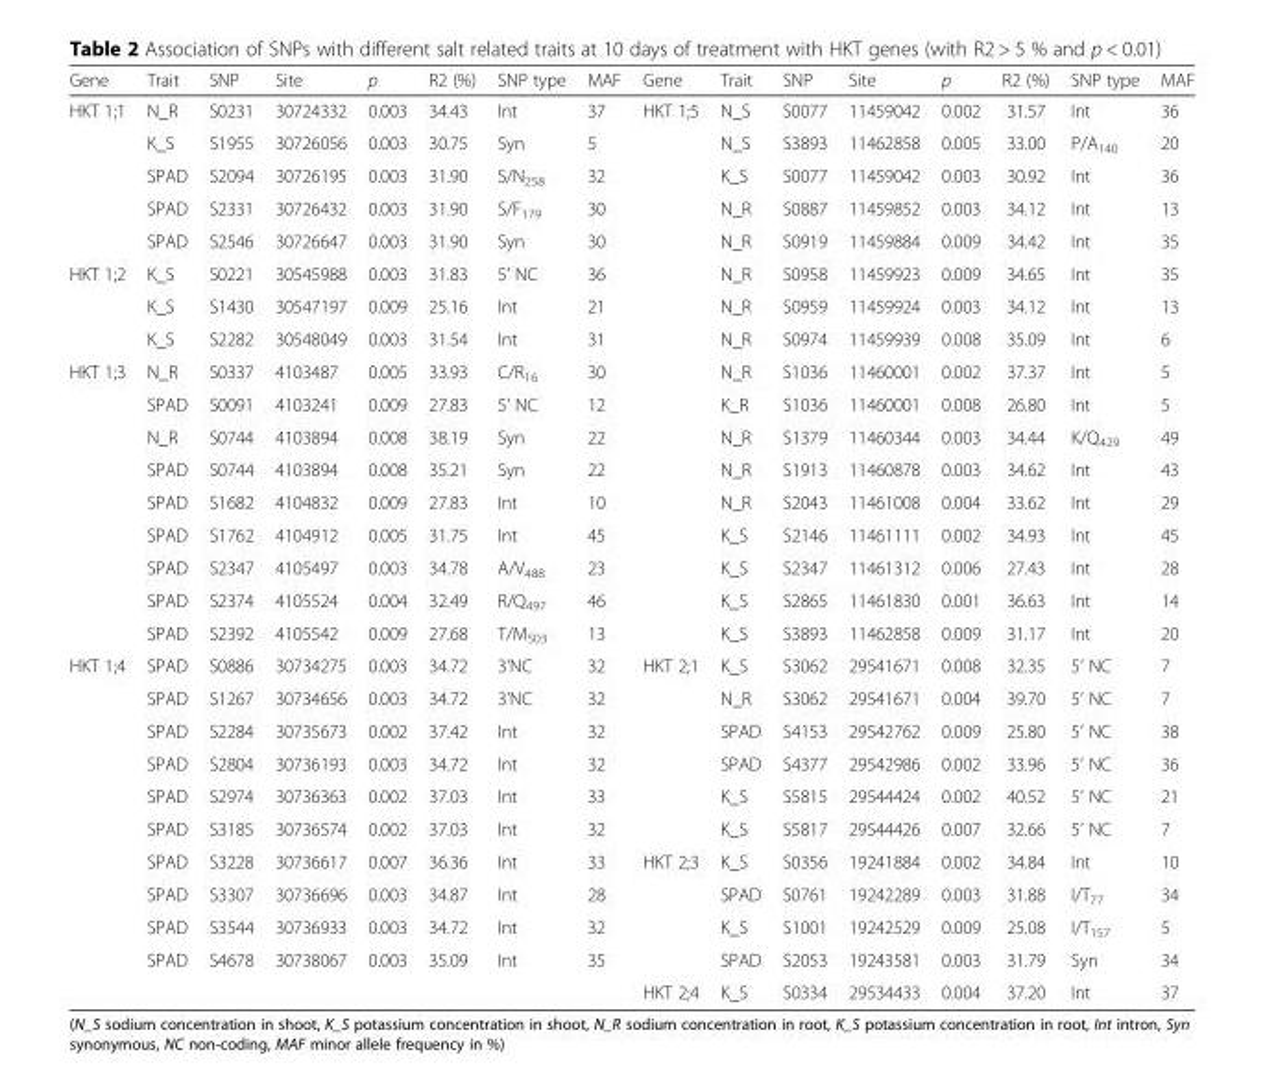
<table><thead><tr><td>Gene</td><td>Trait</td><td>SNP</td><td>Site</td><td>p</td><td>R2 (%)</td><td>SNP type</td><td>MAF</td><td>Gene</td><td>Trait</td><td>SNP</td><td>Site</td><td>p</td><td>R2 (%)</td><td>SNP type</td><td>MAF</td></tr></thead><tbody><tr><td rowspan="5">HKT 1;1</td><td>N_R</td><td>S0231</td><td>30724332</td><td>0.003</td><td>34.43</td><td>Int</td><td>37</td><td rowspan="17">HKT 1;5</td><td>N_S</td><td>S0077</td><td>11459042</td><td>0.002</td><td>31.57</td><td>Int</td><td>36</td></tr><tr><td>K_S</td><td>S1955</td><td>30726056</td><td>0.003</td><td>30.75</td><td>Syn</td><td>5</td><td>N_S</td><td>S3893</td><td>11462858</td><td>0.005</td><td>33.00</td><td>P/A<sub>140</sub></td><td>20</td></tr><tr><td>SPAD</td><td>S2094</td><td>30726195</td><td>0.003</td><td>31.90</td><td>S/N<sub>258</sub></td><td>32</td><td>K_S</td><td>S0077</td><td>11459042</td><td>0.003</td><td>30.92</td><td>Int</td><td>36</td></tr><tr><td>SPAD</td><td>S2331</td><td>30726432</td><td>0.003</td><td>31.90</td><td>S/F<sub>179</sub></td><td>30</td><td>N_R</td><td>S0887</td><td>11459852</td><td>0.003</td><td>34.12</td><td>Int</td><td>13</td></tr><tr><td>SPAD</td><td>S2546</td><td>30726647</td><td>0.003</td><td>31.90</td><td>Syn</td><td>30</td><td>N_R</td><td>S0919</td><td>11459884</td><td>0.009</td><td>34.42</td><td>Int</td><td>35</td></tr><tr><td rowspan="3">HKT 1;2</td><td>K_S</td><td>S0221</td><td>30545988</td><td>0.003</td><td>31.83</td><td>5’ NC</td><td>36</td><td>N_R</td><td>S0958</td><td>11459923</td><td>0.009</td><td>34.65</td><td>Int</td><td>35</td></tr><tr><td>K_S</td><td>S1430</td><td>30547197</td><td>0.009</td><td>25.16</td><td>Int</td><td>21</td><td>N_R</td><td>S0959</td><td>11459924</td><td>0.003</td><td>34.12</td><td>Int</td><td>13</td></tr><tr><td>K_S</td><td>S2282</td><td>30548049</td><td>0.003</td><td>31.54</td><td>Int</td><td>31</td><td>N_R</td><td>S0974</td><td>11459939</td><td>0.008</td><td>35.09</td><td>Int</td><td>6</td></tr><tr><td rowspan="9">HKT 1;3</td><td>N_R</td><td>S0337</td><td>4103487</td><td>0.005</td><td>33.93</td><td>C/R<sub>16</sub></td><td>30</td><td>N_R</td><td>S1036</td><td>11460001</td><td>0.002</td><td>37.37</td><td>Int</td><td>5</td></tr><tr><td>SPAD</td><td>S0091</td><td>4103241</td><td>0.009</td><td>27.83</td><td>5’ NC</td><td>12</td><td>K_R</td><td>S1036</td><td>11460001</td><td>0.008</td><td>26.80</td><td>Int</td><td>5</td></tr><tr><td>N_R</td><td>S0744</td><td>4103894</td><td>0.008</td><td>38.19</td><td>Syn</td><td>22</td><td>N_R</td><td>S1379</td><td>11460344</td><td>0.003</td><td>34.44</td><td>K/Q<sub>429</sub></td><td>49</td></tr><tr><td>SPAD</td><td>S0744</td><td>4103894</td><td>0.008</td><td>35.21</td><td>Syn</td><td>22</td><td>N_R</td><td>S1913</td><td>11460878</td><td>0.003</td><td>34.62</td><td>Int</td><td>43</td></tr><tr><td>SPAD</td><td>S1682</td><td>4104832</td><td>0.009</td><td>27.83</td><td>Int</td><td>10</td><td>N_R</td><td>S2043</td><td>11461008</td><td>0.004</td><td>33.62</td><td>Int</td><td>29</td></tr><tr><td>SPAD</td><td>S1762</td><td>4104912</td><td>0.005</td><td>31.75</td><td>Int</td><td>45</td><td>K_S</td><td>S2146</td><td>11461111</td><td>0.002</td><td>34.93</td><td>Int</td><td>45</td></tr><tr><td>SPAD</td><td>S2347</td><td>4105497</td><td>0.003</td><td>34.78</td><td>A/V<sub>488</sub></td><td>23</td><td>K_S</td><td>S2347</td><td>11461312</td><td>0.006</td><td>27.43</td><td>Int</td><td>28</td></tr><tr><td>SPAD</td><td>S2374</td><td>4105524</td><td>0.004</td><td>32.49</td><td>R/Q<sub>497</sub></td><td>46</td><td>K_S</td><td>S2865</td><td>11461830</td><td>0.001</td><td>36.63</td><td>Int</td><td>14</td></tr><tr><td>SPAD</td><td>S2392</td><td>4105542</td><td>0.009</td><td>27.68</td><td>T/M<sub>503</sub></td><td>13</td><td>K_S</td><td>S3893</td><td>11462858</td><td>0.009</td><td>31.17</td><td>Int</td><td>20</td></tr><tr><td rowspan="11">HKT 1;4</td><td>SPAD</td><td>S0886</td><td>30734275</td><td>0.003</td><td>34.72</td><td>3’NC</td><td>32</td><td rowspan="6">HKT 2;1</td><td>K_S</td><td>S3062</td><td>29541671</td><td>0.008</td><td>32.35</td><td>5’ NC</td><td>7</td></tr><tr><td>SPAD</td><td>S1267</td><td>30734656</td><td>0.003</td><td>34.72</td><td>3’NC</td><td>32</td><td>N_R</td><td>S3062</td><td>29541671</td><td>0.004</td><td>39.70</td><td>5’ NC</td><td>7</td></tr><tr><td>SPAD</td><td>S2284</td><td>30735673</td><td>0.002</td><td>37.42</td><td>Int</td><td>32</td><td>SPAD</td><td>S4153</td><td>29542762</td><td>0.009</td><td>25.80</td><td>5’ NC</td><td>38</td></tr><tr><td>SPAD</td><td>S2804</td><td>30736193</td><td>0.003</td><td>34.72</td><td>Int</td><td>32</td><td>SPAD</td><td>S4377</td><td>29542986</td><td>0.002</td><td>33.96</td><td>5’ NC</td><td>36</td></tr><tr><td>SPAD</td><td>S2974</td><td>30736363</td><td>0.002</td><td>37.03</td><td>Int</td><td>33</td><td>K_S</td><td>S5815</td><td>29544424</td><td>0.002</td><td>40.52</td><td>5’ NC</td><td>21</td></tr><tr><td>SPAD</td><td>S3185</td><td>30736574</td><td>0.002</td><td>37.03</td><td>Int</td><td>32</td><td>K_S</td><td>S5817</td><td>29544426</td><td>0.007</td><td>32.66</td><td>5’ NC</td><td>7</td></tr><tr><td>SPAD</td><td>S3228</td><td>30736617</td><td>0.007</td><td>36.36</td><td>Int</td><td>33</td><td rowspan="4">HKT 2;3</td><td>K_S</td><td>S0356</td><td>19241884</td><td>0.002</td><td>34.84</td><td>Int</td><td>10</td></tr><tr><td>SPAD</td><td>S3307</td><td>30736696</td><td>0.003</td><td>34.87</td><td>Int</td><td>28</td><td>SPAD</td><td>S0761</td><td>19242289</td><td>0.003</td><td>31.88</td><td>I/T<sub>77</sub></td><td>34</td></tr><tr><td>SPAD</td><td>S3544</td><td>30736933</td><td>0.003</td><td>34.72</td><td>Int</td><td>32</td><td>K_S</td><td>S1001</td><td>19242529</td><td>0.009</td><td>25.08</td><td>I/T<sub>157</sub></td><td>5</td></tr><tr><td>SPAD</td><td>S4678</td><td>30738067</td><td>0.003</td><td>35.09</td><td>Int</td><td>35</td><td>SPAD</td><td>S2053</td><td>19243581</td><td>0.003</td><td>31.79</td><td>Syn</td><td>34</td></tr><tr><td></td><td></td><td></td><td></td><td></td><td></td><td></td><td>HKT 2;4</td><td>K_S</td><td>S0334</td><td>29534433</td><td>0.004</td><td>37.20</td><td>Int</td><td>37</td></tr></tbody></table>